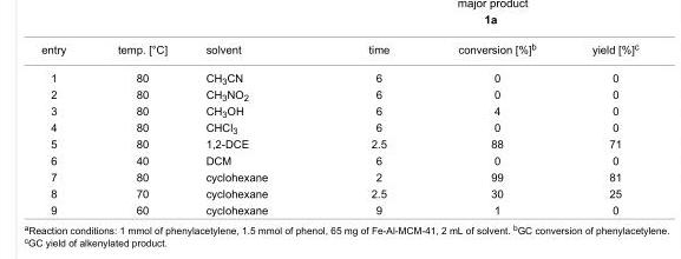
<table><tbody><tr><td>entry</td><td>temp. [°C]</td><td>solvent</td><td>time</td><td>conversion [%]<sup>b</sup></td><td>yield [%]<sup>c</sup></td></tr><tr><td>1</td><td>80</td><td>CH<sub>3</sub>CN</td><td>6</td><td>0</td><td>0</td></tr><tr><td>2</td><td>80</td><td>CH<sub>3</sub>NO<sub>2</sub></td><td>6</td><td>0</td><td>0</td></tr><tr><td>3</td><td>80</td><td>CH<sub>3</sub>OH</td><td>6</td><td>4</td><td>0</td></tr><tr><td>4</td><td>80</td><td>CHCl<sub>3</sub></td><td>6</td><td>0</td><td>0</td></tr><tr><td>5</td><td>80</td><td>1,2-DCE</td><td>2.5</td><td>88</td><td>71</td></tr><tr><td>6</td><td>40</td><td>DCM</td><td>6</td><td>0</td><td>0</td></tr><tr><td>7</td><td>80</td><td>cyclohexane</td><td>2</td><td>99</td><td>81</td></tr><tr><td>8</td><td>70</td><td>cyclohexane</td><td>2.5</td><td>30</td><td>25</td></tr><tr><td>9</td><td>60</td><td>cyclohexane</td><td>9</td><td>1</td><td>0</td></tr></tbody></table>